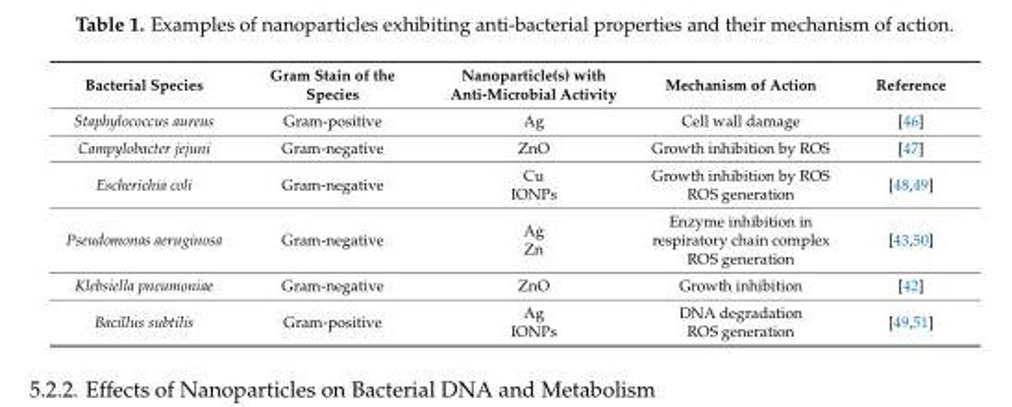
<table><thead><tr><td>Bacterial Species</td><td>Gram Stain of the Species</td><td>Nanoparticle(s) with Anti-Microbial Activity</td><td>Mechanism of Action</td><td>Reference</td></tr></thead><tbody><tr><td>Staphylococcus aureus</td><td>Gram-positive</td><td>Ag</td><td>Cell wall damage</td><td>[46]</td></tr><tr><td>Campylobacter jejuni</td><td>Gram-negative</td><td>ZnO</td><td>Growth inhibition by ROS</td><td>[47]</td></tr><tr><td>Escherichia coli</td><td>Gram-negative</td><td>Cu IONPs</td><td>Growth inhibition by ROS ROS generation</td><td>[48,49]</td></tr><tr><td>Pseudomonas aeruginosa</td><td>Gram-negative</td><td>Ag Zn</td><td>Enzyme inhibition in respiratory chain complex ROS generation</td><td>[43,50]</td></tr><tr><td>Klebsiella pneumoniae</td><td>Gram-negative</td><td>ZnO</td><td>Growth inhibition</td><td>[42]</td></tr><tr><td>Bacillus subtilis</td><td>Gram-positive</td><td>Ag IONPs</td><td>DNA degradation ROS generation</td><td>[49,51]</td></tr></tbody></table>